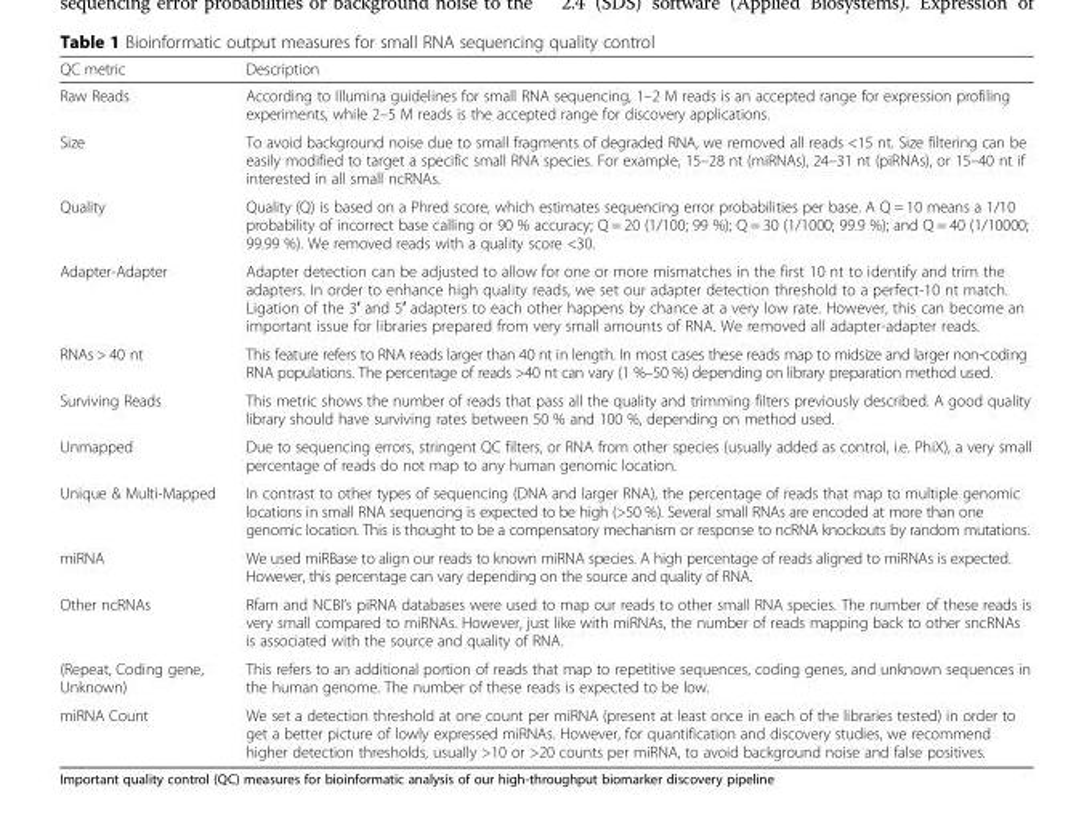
<table><thead><tr><td>QC metric</td><td>Description</td></tr></thead><tbody><tr><td>Raw Reads</td><td>According to Illumina guidelines for small RNA sequencing, 1–2 M reads is an accepted range for expression profiling experiments, while 2–5 M reads is the accepted range for discovery applications.</td></tr><tr><td>Size</td><td>To avoid background noise due to small fragments of degraded RNA, we removed all reads &lt;15 nt. Size filtering can be easily modified to target a specific small RNA species. For example, 15–28 nt (miRNAs), 24–31 nt (piRNAs), or 15–40 nt if interested in all small ncRNAs.</td></tr><tr><td>Quality</td><td>Quality (Q) is based on a Phred score, which estimates sequencing error probabilities per base. A Q = 10 means a 1/10 probability of incorrect base calling or 90 % accuracy; Q = 20 (1/100; 99 %); Q = 30 (1/1000; 99.9 %); and Q = 40 (1/10000; 99.99 %). We removed reads with a quality score &lt;30.</td></tr><tr><td>Adapter-Adapter</td><td>Adapter detection can be adjusted to allow for one or more mismatches in the first 10 nt to identify and trim the adapters. In order to enhance high quality reads, we set our adapter detection threshold to a perfect-10 nt match. Ligation of the 3′ and 5′ adapters to each other happens by chance at a very low rate. However, this can become an important issue for libraries prepared from very small amounts of RNA. We removed all adapter-adapter reads.</td></tr><tr><td>RNAs &gt; 40 nt</td><td>This feature refers to RNA reads larger than 40 nt in length. In most cases these reads map to midsize and larger non-coding RNA populations. The percentage of reads &gt;40 nt can vary (1 %–50 %) depending on library preparation method used.</td></tr><tr><td>Surviving Reads</td><td>This metric shows the number of reads that pass all the quality and trimming filters previously described. A good quality library should have surviving rates between 50 % and 100 %, depending on method used.</td></tr><tr><td>Unmapped</td><td>Due to sequencing errors, stringent QC filters, or RNA from other species (usually added as control, i.e. PhiX), a very small percentage of reads do not map to any human genomic location.</td></tr><tr><td>Unique &amp; Multi-Mapped</td><td>In contrast to other types of sequencing (DNA and larger RNA), the percentage of reads that map to multiple genomic locations in small RNA sequencing is expected to be high (&gt;50 %). Several small RNAs are encoded at more than one genomic location. This is thought to be a compensatory mechanism or response to ncRNA knockouts by random mutations.</td></tr><tr><td>miRNA</td><td>We used miRBase to align our reads to known miRNA species. A high percentage of reads aligned to miRNAs is expected. However, this percentage can vary depending on the source and quality of RNA.</td></tr><tr><td>Other ncRNAs</td><td>Rfam and NCBI’s piRNA databases were used to map our reads to other small RNA species. The number of these reads is very small compared to miRNAs. However, just like with miRNAs, the number of reads mapping back to other sncRNAs is associated with the source and quality of RNA.</td></tr><tr><td>(Repeat, Coding gene, Unknown)</td><td>This refers to an additional portion of reads that map to repetitive sequences, coding genes, and unknown sequences in the human genome. The number of these reads is expected to be low.</td></tr><tr><td>miRNA Count</td><td>We set a detection threshold at one count per miRNA (present at least once in each of the libraries tested) in order to get a better picture of lowly expressed miRNAs. However, for quantification and discovery studies, we recommend higher detection thresholds, usually &gt;10 or &gt;20 counts per miRNA, to avoid background noise and false positives.</td></tr></tbody></table>